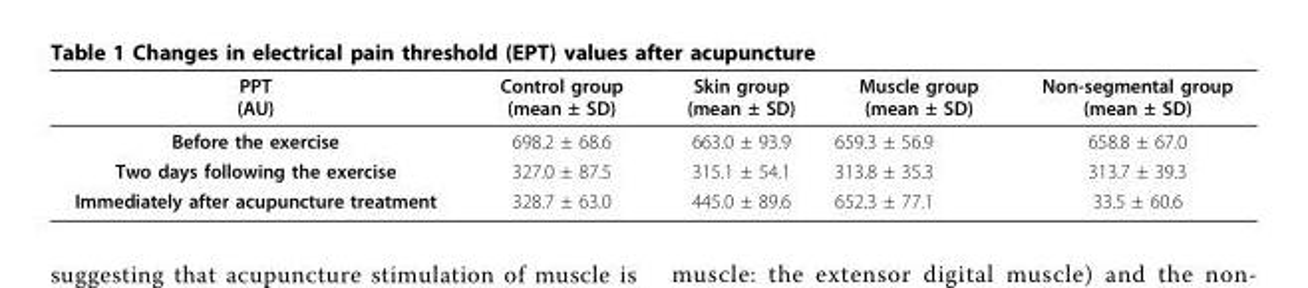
<table><thead><tr><td>PPT (AU)</td><td>Control group (mean ± SD)</td><td>Skin group (mean ± SD)</td><td>Muscle group (mean ± SD)</td><td>Non-segmental group (mean ± SD)</td></tr></thead><tbody><tr><td>Before the exercise</td><td>698.2 ± 68.6</td><td>663.0 ± 93.9</td><td>659.3 ± 56.9</td><td>658.8 ± 67.0</td></tr><tr><td>Two days following the exercise</td><td>327.0 ± 87.5</td><td>315.1 ± 54.1</td><td>313.8 ± 35.3</td><td>313.7 ± 39.3</td></tr><tr><td>Immediately after acupuncture treatment</td><td>328.7 ± 63.0</td><td>445.0 ± 89.6</td><td>652.3 ± 77.1</td><td>33.5 ± 60.6</td></tr></tbody></table>